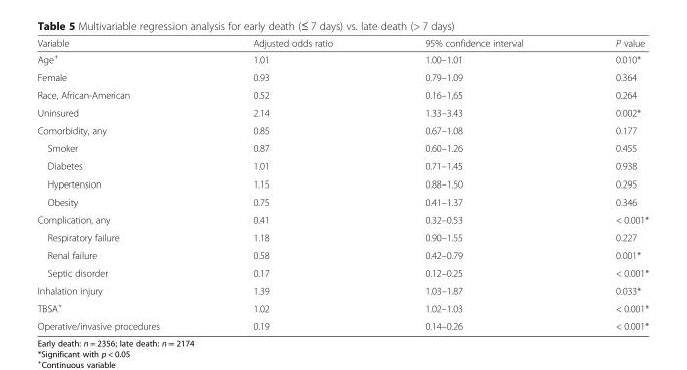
<table><thead><tr><td>Variable</td><td>Adjusted odds ratio</td><td>95% confidence interval</td><td>P value</td></tr></thead><tbody><tr><td>Age<sup>+</sup></td><td>1.01</td><td>1.00–1.01</td><td>0.010*</td></tr><tr><td>Female</td><td>0.93</td><td>0.79–1.09</td><td>0.364</td></tr><tr><td>Race, African-American</td><td>0.52</td><td>0.16–1,65</td><td>0.264</td></tr><tr><td>Uninsured</td><td>2.14</td><td>1.33–3.43</td><td>0.002*</td></tr><tr><td>Comorbidity, any</td><td>0.85</td><td>0.67–1.08</td><td>0.177</td></tr><tr><td>Smoker</td><td>0.87</td><td>0.60–1.26</td><td>0.455</td></tr><tr><td>Diabetes</td><td>1.01</td><td>0.71–1.45</td><td>0.938</td></tr><tr><td>Hypertension</td><td>1.15</td><td>0.88–1.50</td><td>0.295</td></tr><tr><td>Obesity</td><td>0.75</td><td>0.41–1.37</td><td>0.346</td></tr><tr><td>Complication, any</td><td>0.41</td><td>0.32–0.53</td><td>&lt; 0.001*</td></tr><tr><td>Respiratory failure</td><td>1.18</td><td>0.90–1.55</td><td>0.227</td></tr><tr><td>Renal failure</td><td>0.58</td><td>0.42–0.79</td><td>0.001*</td></tr><tr><td>Septic disorder</td><td>0.17</td><td>0.12–0.25</td><td>&lt; 0.001*</td></tr><tr><td>Inhalation injury</td><td>1.39</td><td>1.03–1.87</td><td>0.033*</td></tr><tr><td>TBSA<sup>+</sup></td><td>1.02</td><td>1.02–1.03</td><td>&lt; 0.001*</td></tr><tr><td>Operative/invasive procedures</td><td>0.19</td><td>0.14–0.26</td><td>&lt; 0.001*</td></tr></tbody></table>